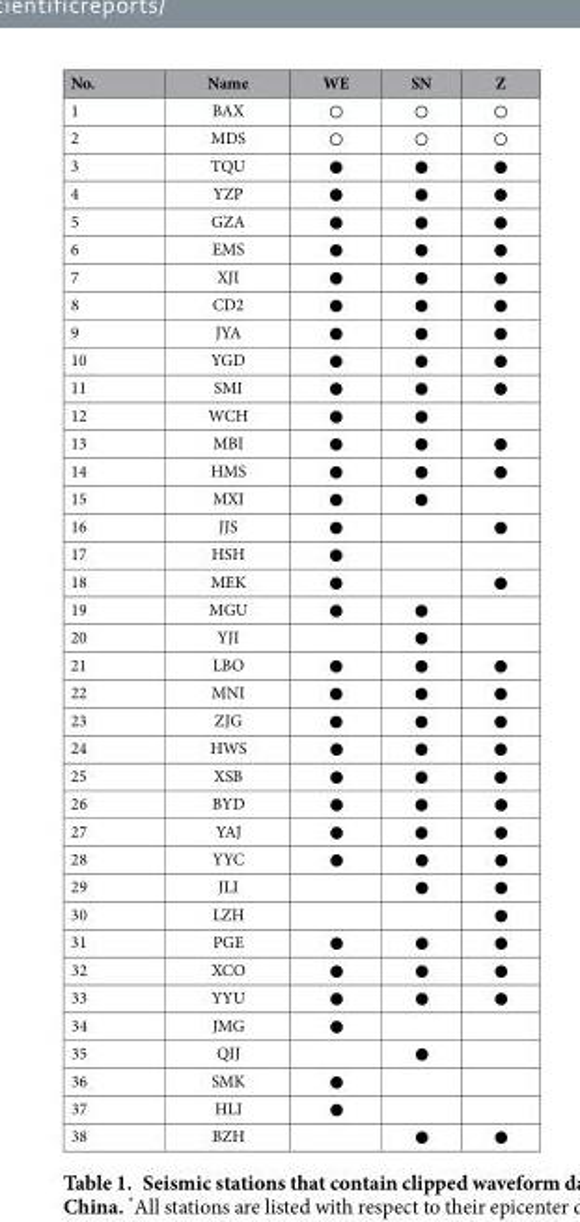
<table><thead><tr><td>No.</td><td>Name</td><td>WE</td><td>SN</td><td>Z</td></tr></thead><tbody><tr><td>1</td><td>BAX</td><td>○</td><td>○</td><td>○</td></tr><tr><td>2</td><td>MDS</td><td>○</td><td>○</td><td>○</td></tr><tr><td>3</td><td>TQU</td><td>●</td><td>●</td><td>●</td></tr><tr><td>4</td><td>YZP</td><td>●</td><td>●</td><td>●</td></tr><tr><td>5</td><td>GZA</td><td>●</td><td>●</td><td>●</td></tr><tr><td>6</td><td>EMS</td><td>●</td><td>●</td><td>●</td></tr><tr><td>7</td><td>XJI</td><td>●</td><td>●</td><td>●</td></tr><tr><td>8</td><td>CD2</td><td>●</td><td>●</td><td>●</td></tr><tr><td>9</td><td>JYA</td><td>●</td><td>●</td><td>●</td></tr><tr><td>10</td><td>YGD</td><td>●</td><td>●</td><td>●</td></tr><tr><td>11</td><td>SMI</td><td>●</td><td>●</td><td>●</td></tr><tr><td>12</td><td>WCH</td><td>●</td><td>●</td><td></td></tr><tr><td>13</td><td>MBI</td><td>●</td><td>●</td><td>●</td></tr><tr><td>14</td><td>HMS</td><td>●</td><td>●</td><td>●</td></tr><tr><td>15</td><td>MXI</td><td>●</td><td>●</td><td></td></tr><tr><td>16</td><td>JJS</td><td>●</td><td></td><td>●</td></tr><tr><td>17</td><td>HSH</td><td>●</td><td></td><td></td></tr><tr><td>18</td><td>MEK</td><td>●</td><td></td><td>●</td></tr><tr><td>19</td><td>MGU</td><td>●</td><td>●</td><td></td></tr><tr><td>20</td><td>YJI</td><td></td><td>●</td><td></td></tr><tr><td>21</td><td>LBO</td><td>●</td><td>●</td><td>●</td></tr><tr><td>22</td><td>MNI</td><td>●</td><td>●</td><td>●</td></tr><tr><td>23</td><td>ZJG</td><td>●</td><td>●</td><td>●</td></tr><tr><td>24</td><td>HWS</td><td>●</td><td>●</td><td>●</td></tr><tr><td>25</td><td>XSB</td><td>●</td><td>●</td><td>●</td></tr><tr><td>26</td><td>BYD</td><td>●</td><td>●</td><td>●</td></tr><tr><td>27</td><td>YAJ</td><td>●</td><td>●</td><td>●</td></tr><tr><td>28</td><td>YYC</td><td>●</td><td>●</td><td>●</td></tr><tr><td>29</td><td>JLI</td><td></td><td>●</td><td>●</td></tr><tr><td>30</td><td>LZH</td><td></td><td></td><td>●</td></tr><tr><td>31</td><td>PGE</td><td>●</td><td>●</td><td>●</td></tr><tr><td>32</td><td>XCO</td><td>●</td><td>●</td><td>●</td></tr><tr><td>33</td><td>YYU</td><td>●</td><td>●</td><td>●</td></tr><tr><td>34</td><td>JMG</td><td>●</td><td></td><td></td></tr><tr><td>35</td><td>QIJ</td><td></td><td>●</td><td></td></tr><tr><td>36</td><td>SMK</td><td>●</td><td></td><td></td></tr><tr><td>37</td><td>HLI</td><td>●</td><td></td><td></td></tr><tr><td>38</td><td>BZH</td><td></td><td>●</td><td>●</td></tr></tbody></table>